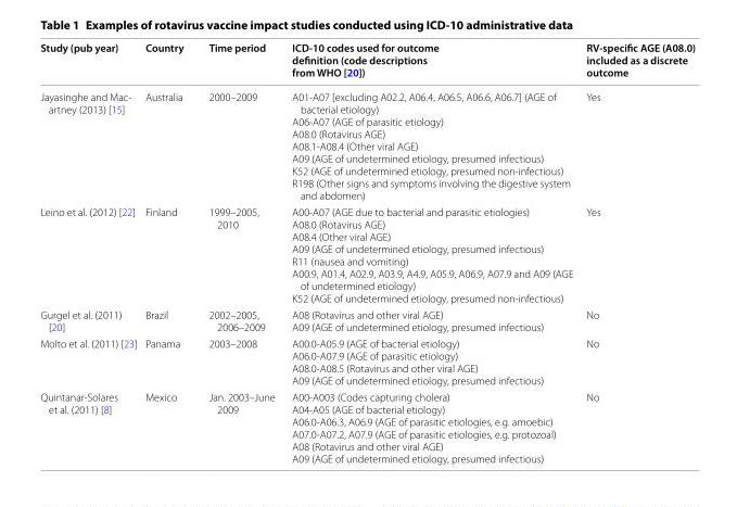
<table><thead><tr><td>Study (pub year)</td><td>Country</td><td>Time period</td><td>ICD-10 codes used for outcome definition (code descriptions from WHO [20])</td><td>RV-specific AGE (A08.0) included as a discrete outcome</td></tr></thead><tbody><tr><td>Jayasinghe and Mac- artney (2013) [15]</td><td>Australia</td><td>2000–2009</td><td>A01-A07 [excluding A02.2, A06.4, A06.5, A06.6, A06.7] (AGE of bacterial etiology) A06-A07 (AGE of parasitic etiology) A08.0 (Rotavirus AGE) A08.1-A08.4 (Other viral AGE) A09 (AGE of undetermined etiology, presumed infectious) K52 (AGE of undetermined etiology, presumed non-infectious) R198 (Other signs and symptoms involving the digestive system and abdomen)</td><td>Yes</td></tr><tr><td>Leino et al. (2012) [22]</td><td>Finland</td><td>1999–2005, 2010</td><td>A00-A07 (AGE due to bacterial and parasitic etiologies) A08.0 (Rotavirus AGE) A08.4 (Other viral AGE) A09 (AGE of undetermined etiology, presumed infectious) R11 (nausea and vomiting) A00.9, A01.4, A02.9, A03.9, A4.9, A05.9, A06.9, A07.9 and A09 (AGE of undetermined etiology) K52 (AGE of undetermined etiology, presumed non-infectious)</td><td>Yes</td></tr><tr><td>Gurgel et al. (2011) [20]</td><td>Brazil</td><td>2002–2005, 2006–2009</td><td>A08 (Rotavirus and other viral AGE) A09 (AGE of undetermined etiology, presumed infectious)</td><td>No</td></tr><tr><td>Molto et al. (2011) [23]</td><td>Panama</td><td>2003–2008</td><td>A00.0-A05.9 (AGE of bacterial etiology) A06.0-A07.9 (AGE of parasitic etiology) A08.0-A08.5 (Rotavirus and other viral AGE) A09 (AGE of undetermined etiology, presumed infectious)</td><td>No</td></tr><tr><td>Quintanar-Solares et al. (2011) [8]</td><td>Mexico</td><td>Jan. 2003–June 2009</td><td>A00-A003 (Codes capturing cholera) A04-A05 (AGE of bacterial etiology) A06.0-A06.3, A06.9 (AGE of parasitic etiologies, e.g. amoebic) A07.0-A07.2, A07.9 (AGE of parasitic etiologies, e.g. protozoal) A08 (Rotavirus and other viral AGE) A09 (AGE of undetermined etiology, presumed infectious)</td><td>No</td></tr></tbody></table>